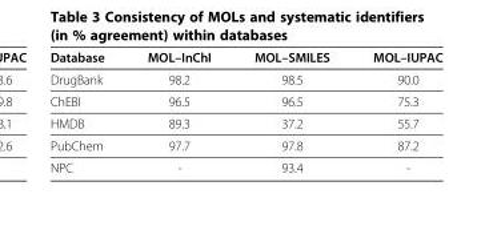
<table><thead><tr><td>Database</td><td>MOL–InChI</td><td>MOL–SMILES</td><td>MOL–IUPAC</td></tr></thead><tbody><tr><td>DrugBank</td><td>98.2</td><td>98.5</td><td>90.0</td></tr><tr><td>ChEBI</td><td>96.5</td><td>96.5</td><td>75.3</td></tr><tr><td>HMDB</td><td>89.3</td><td>37.2</td><td>55.7</td></tr><tr><td>PubChem</td><td>97.7</td><td>97.8</td><td>87.2</td></tr><tr><td>NPC</td><td>-</td><td>93.4</td><td>-</td></tr></tbody></table>